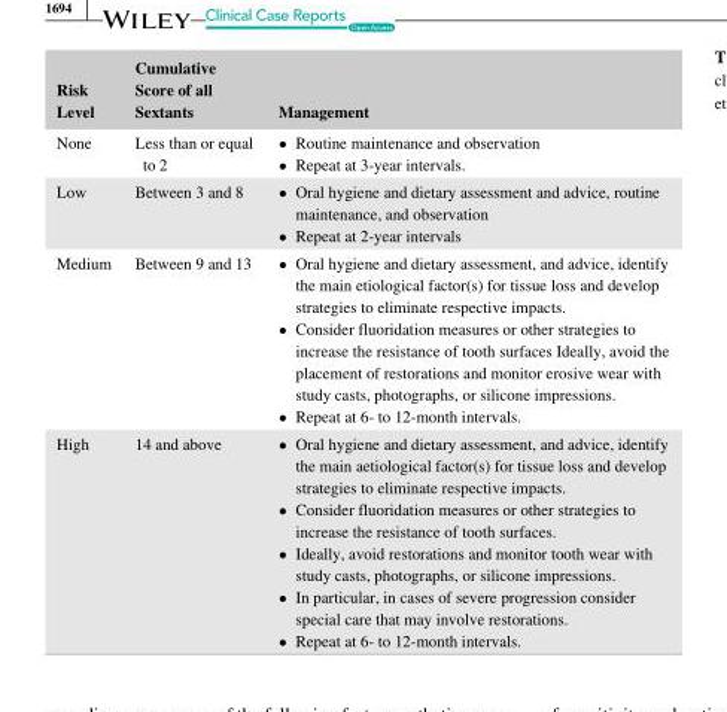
<table><thead><tr><td>Risk Level</td><td>Cumulative Score of all Sextants</td><td>Management</td></tr></thead><tbody><tr><td>None</td><td>Less than or equal to 2</td><td>• Routine maintenance and observation • Repeat at 3-year intervals.</td></tr><tr><td>Low</td><td>Between 3 and 8</td><td>• Oral hygiene and dietary assessment and advice, routine maintenance, and observation • Repeat at 2-year intervals</td></tr><tr><td>Medium</td><td>Between 9 and 13</td><td>• Oral hygiene and dietary assessment, and advice, identify the main etiological factor(s) for tissue loss and develop strategies to eliminate respective impacts. • Consider fluoridation measures or other strategies to increase the resistance of tooth surfaces Ideally, avoid the placement of restorations and monitor erosive wear with study casts, photographs, or silicone impressions. • Repeat at 6- to 12-month intervals.</td></tr><tr><td>High</td><td>14 and above</td><td>• Oral hygiene and dietary assessment, and advice, identify the main aetiological factor(s) for tissue loss and develop strategies to eliminate respective impacts. • Consider fluoridation measures or other strategies to increase the resistance of tooth surfaces. • Ideally, avoid restorations and monitor tooth wear with study casts, photographs, or silicone impressions. • In particular, in cases of severe progression consider special care that may involve restorations. • Repeat at 6- to 12-month intervals.</td></tr></tbody></table>